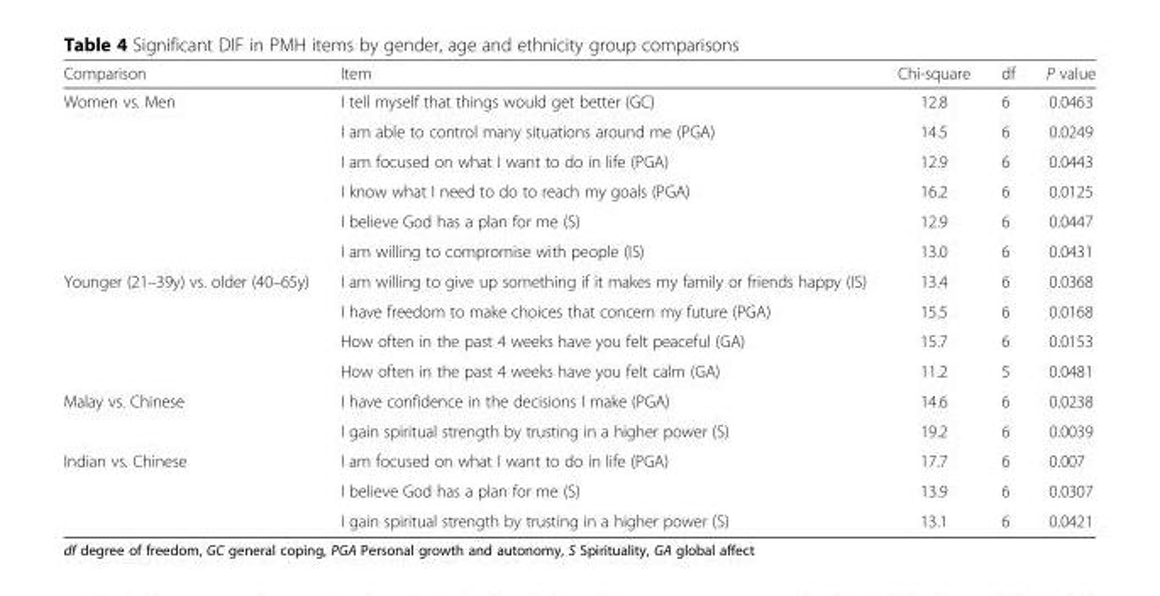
<table><thead><tr><td>Comparison</td><td>Item</td><td>Chi-square</td><td>df</td><td>P value</td></tr></thead><tbody><tr><td rowspan="6">Women vs. Men</td><td>I tell myself that things would get better (GC)</td><td>12.8</td><td>6</td><td>0.0463</td></tr><tr><td>I am able to control many situations around me (PGA)</td><td>14.5</td><td>6</td><td>0.0249</td></tr><tr><td>I am focused on what I want to do in life (PGA)</td><td>12.9</td><td>6</td><td>0.0443</td></tr><tr><td>I know what I need to do to reach my goals (PGA)</td><td>16.2</td><td>6</td><td>0.0125</td></tr><tr><td>I believe God has a plan for me (S)</td><td>12.9</td><td>6</td><td>0.0447</td></tr><tr><td>I am willing to compromise with people (IS)</td><td>13.0</td><td>6</td><td>0.0431</td></tr><tr><td rowspan="4">Younger (21–39y) vs. older (40–65y)</td><td>I am willing to give up something if it makes my family or friends happy (IS)</td><td>13.4</td><td>6</td><td>0.0368</td></tr><tr><td>I have freedom to make choices that concern my future (PGA)</td><td>15.5</td><td>6</td><td>0.0168</td></tr><tr><td>How often in the past 4 weeks have you felt peaceful (GA)</td><td>15.7</td><td>6</td><td>0.0153</td></tr><tr><td>How often in the past 4 weeks have you felt calm (GA)</td><td>11.2</td><td>5</td><td>0.0481</td></tr><tr><td rowspan="2">Malay vs. Chinese</td><td>I have confidence in the decisions I make (PGA)</td><td>14.6</td><td>6</td><td>0.0238</td></tr><tr><td>I gain spiritual strength by trusting in a higher power (S)</td><td>19.2</td><td>6</td><td>0.0039</td></tr><tr><td rowspan="3">Indian vs. Chinese</td><td>I am focused on what I want to do in life (PGA)</td><td>17.7</td><td>6</td><td>0.007</td></tr><tr><td>I believe God has a plan for me (S)</td><td>13.9</td><td>6</td><td>0.0307</td></tr><tr><td>I gain spiritual strength by trusting in a higher power (S)</td><td>13.1</td><td>6</td><td>0.0421</td></tr></tbody></table>